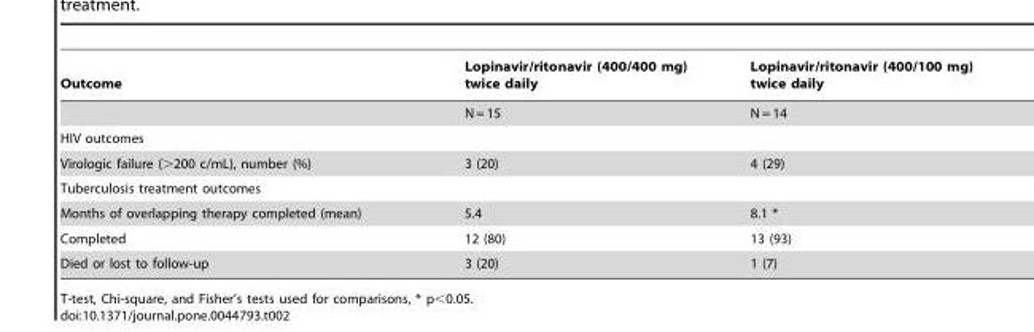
<table><thead><tr><td>Outcome</td><td>Lopinavir/ritonavir (400/400 mg) twice daily</td><td>Lopinavir/ritonavir (400/100 mg) twice daily</td></tr></thead><tbody><tr><td></td><td>N = 15</td><td>N = 14</td></tr><tr><td colspan="3">HIV outcomes</td></tr><tr><td>Virologic failure (&gt;200 c/mL), number (%)</td><td>3 (20)</td><td>4 (29)</td></tr><tr><td colspan="3">Tuberculosis treatment outcomes</td></tr><tr><td>Months of overlapping therapy completed (mean)</td><td>5.4</td><td>8.1 *</td></tr><tr><td>Completed</td><td>12 (80)</td><td>13 (93)</td></tr><tr><td>Died or lost to follow-up</td><td>3 (20)</td><td>1 (7)</td></tr></tbody></table>